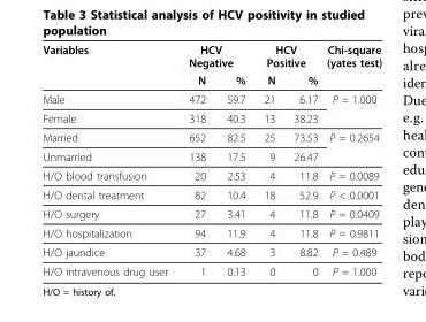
<table><thead><tr><td rowspan="2">Variables</td><td colspan="2">HCV Negative</td><td colspan="2">HCV Positive</td><td rowspan="2">Chi-square (yates test)</td></tr><tr><td>N</td><td>%</td><td>N</td><td>%</td></tr></thead><tbody><tr><td>Male</td><td>472</td><td>59.7</td><td>21</td><td>6.17</td><td>P = 1.000</td></tr><tr><td>Female</td><td>318</td><td>40.3</td><td>13</td><td>38.23</td><td></td></tr><tr><td>Married</td><td>652</td><td>82.5</td><td>25</td><td>73.53</td><td>P = 0.2654</td></tr><tr><td>Unmarried</td><td>138</td><td>17.5</td><td>9</td><td>26.47</td><td></td></tr><tr><td>H/O blood transfusion</td><td>20</td><td>2.53</td><td>4</td><td>11.8</td><td>P = 0.0089</td></tr><tr><td>H/O dental treatment</td><td>82</td><td>10.4</td><td>18</td><td>52.9</td><td>P &lt; 0.0001</td></tr><tr><td>H/O surgery</td><td>27</td><td>3.41</td><td>4</td><td>11.8</td><td>P = 0.0409</td></tr><tr><td>H/O hospitalization</td><td>94</td><td>11.9</td><td>4</td><td>11.8</td><td>P = 0.9811</td></tr><tr><td>H/O jaundice</td><td>37</td><td>4.68</td><td>3</td><td>8.82</td><td>P = 0.489</td></tr><tr><td>H/O intravenous drug user</td><td>1</td><td>0.13</td><td>0</td><td>0</td><td>P = 1.000</td></tr></tbody></table>